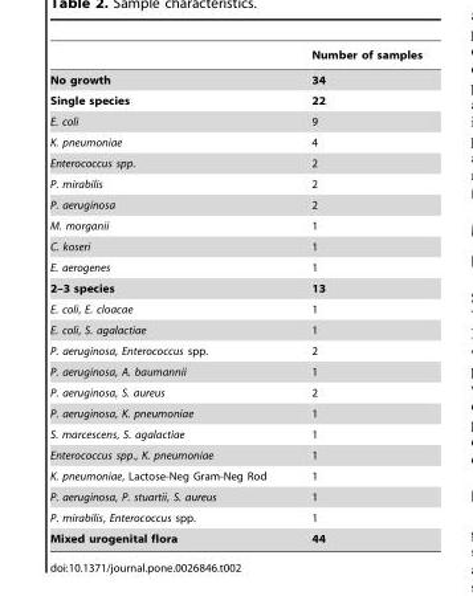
<table><thead><tr><td></td><td>Number of samples</td></tr></thead><tbody><tr><td>No growth</td><td>34</td></tr><tr><td>Single species</td><td>22</td></tr><tr><td>E. coli</td><td>9</td></tr><tr><td>K. pneumoniae</td><td>4</td></tr><tr><td>Enterococcus spp.</td><td>2</td></tr><tr><td>P. mirabilis</td><td>2</td></tr><tr><td>P. aeruginosa</td><td>2</td></tr><tr><td>M. morganii</td><td>1</td></tr><tr><td>C. koseri</td><td>1</td></tr><tr><td>E. aerogenes</td><td>1</td></tr><tr><td>2–3 species</td><td>13</td></tr><tr><td>E. coli, E. cloacae</td><td>1</td></tr><tr><td>E. coli, S. agalactiae</td><td>1</td></tr><tr><td>P. aeruginosa, Enterococcus spp.</td><td>2</td></tr><tr><td>P. aeruginosa, A. baumannii</td><td>1</td></tr><tr><td>P. aeruginosa, S. aureus</td><td>2</td></tr><tr><td>P. aeruginosa, K. pneumoniae</td><td>1</td></tr><tr><td>S. marcescens, S. agalactiae</td><td>1</td></tr><tr><td>Enterococcus spp., K. pneumoniae</td><td>1</td></tr><tr><td>K. pneumoniae, Lactose-Neg Gram-Neg Rod</td><td>1</td></tr><tr><td>P. aeruginosa, P. stuartii, S. aureus</td><td>1</td></tr><tr><td>P. mirabilis, Enterococcus spp.</td><td>1</td></tr><tr><td>Mixed urogenital flora</td><td>44</td></tr></tbody></table>